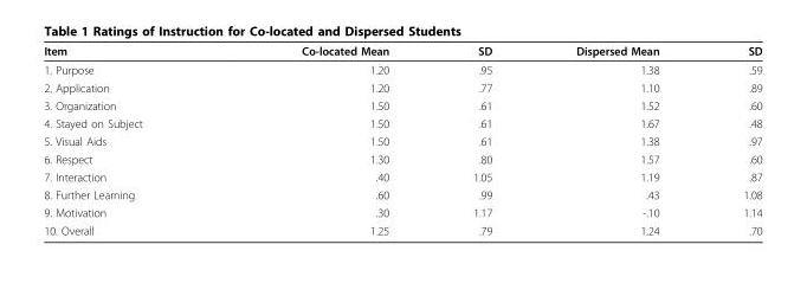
<table><thead><tr><td>Item</td><td>Co-located Mean</td><td>SD</td><td>Dispersed Mean</td><td>SD</td></tr></thead><tbody><tr><td>1. Purpose</td><td>1.20</td><td>.95</td><td>1.38</td><td>.59</td></tr><tr><td>2. Application</td><td>1.20</td><td>.77</td><td>1.10</td><td>.89</td></tr><tr><td>3. Organization</td><td>1.50</td><td>.61</td><td>1.52</td><td>.60</td></tr><tr><td>4. Stayed on Subject</td><td>1.50</td><td>.61</td><td>1.67</td><td>.48</td></tr><tr><td>5. Visual Aids</td><td>1.50</td><td>.61</td><td>1.38</td><td>.97</td></tr><tr><td>6. Respect</td><td>1.30</td><td>.80</td><td>1.57</td><td>.60</td></tr><tr><td>7. Interaction</td><td>.40</td><td>1.05</td><td>1.19</td><td>.87</td></tr><tr><td>8. Further Learning</td><td>.60</td><td>.99</td><td>.43</td><td>1.08</td></tr><tr><td>9. Motivation</td><td>.30</td><td>1.17</td><td>-.10</td><td>1.14</td></tr><tr><td>10. Overall</td><td>1.25</td><td>.79</td><td>1.24</td><td>.70</td></tr></tbody></table>